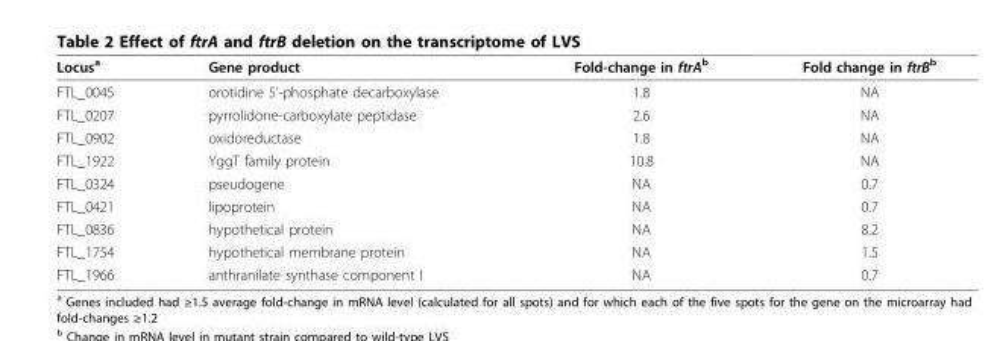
<table><thead><tr><td>Locus<sup>a</sup></td><td>Gene product</td><td>Fold-change in ftrA<sup>b</sup></td><td>Fold change in ftrB<sup>b</sup></td></tr></thead><tbody><tr><td>FTL_0045</td><td>orotidine 5’-phosphate decarboxylase</td><td>1.8</td><td>NA</td></tr><tr><td>FTL_0207</td><td>pyrrolidone-carboxylate peptidase</td><td>2.6</td><td>NA</td></tr><tr><td>FTL_0902</td><td>oxidoreductase</td><td>1.8</td><td>NA</td></tr><tr><td>FTL_1922</td><td>YggT family protein</td><td>10.8</td><td>NA</td></tr><tr><td>FTL_0324</td><td>pseudogene</td><td>NA</td><td>0.7</td></tr><tr><td>FTL_0421</td><td>lipoprotein</td><td>NA</td><td>0.7</td></tr><tr><td>FTL_0836</td><td>hypothetical protein</td><td>NA</td><td>8.2</td></tr><tr><td>FTL_1754</td><td>hypothetical membrane protein</td><td>NA</td><td>1.5</td></tr><tr><td>FTL_1966</td><td>anthranilate synthase component I</td><td>NA</td><td>0.7</td></tr></tbody></table>